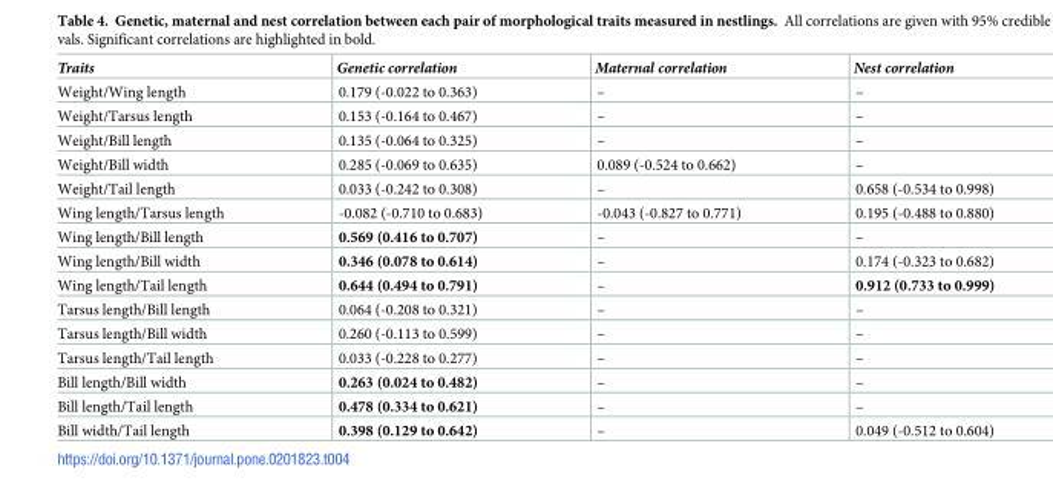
<table><thead><tr><td>Traits</td><td>Genetic correlation</td><td>Maternal correlation</td><td>Nest correlation</td></tr></thead><tbody><tr><td>Weight/Wing length</td><td>0.179 (-0.022 to 0.363)</td><td>–</td><td>–</td></tr><tr><td>Weight/Tarsus length</td><td>0.153 (-0.164 to 0.467)</td><td>–</td><td>–</td></tr><tr><td>Weight/Bill length</td><td>0.135 (-0.064 to 0.325)</td><td>–</td><td>–</td></tr><tr><td>Weight/Bill width</td><td>0.285 (-0.069 to 0.635)</td><td>0.089 (-0.524 to 0.662)</td><td>–</td></tr><tr><td>Weight/Tail length</td><td>0.033 (-0.242 to 0.308)</td><td>–</td><td>0.658 (-0.534 to 0.998)</td></tr><tr><td>Wing length/Tarsus length</td><td>-0.082 (-0.710 to 0.683)</td><td>-0.043 (-0.827 to 0.771)</td><td>0.195 (-0.488 to 0.880)</td></tr><tr><td>Wing length/Bill length</td><td>0.569 (0.416 to 0.707)</td><td>–</td><td>–</td></tr><tr><td>Wing length/Bill width</td><td>0.346 (0.078 to 0.614)</td><td>–</td><td>0.174 (-0.323 to 0.682)</td></tr><tr><td>Wing length/Tail length</td><td>0.644 (0.494 to 0.791)</td><td>–</td><td>0.912 (0.733 to 0.999)</td></tr><tr><td>Tarsus length/Bill length</td><td>0.064 (-0.208 to 0.321)</td><td>–</td><td>–</td></tr><tr><td>Tarsus length/Bill width</td><td>0.260 (-0.113 to 0.599)</td><td>–</td><td>–</td></tr><tr><td>Tarsus length/Tail length</td><td>0.033 (-0.228 to 0.277)</td><td>–</td><td>–</td></tr><tr><td>Bill length/Bill width</td><td>0.263 (0.024 to 0.482)</td><td>–</td><td>–</td></tr><tr><td>Bill length/Tail length</td><td>0.478 (0.334 to 0.621)</td><td>–</td><td>–</td></tr><tr><td>Bill width/Tail length</td><td>0.398 (0.129 to 0.642)</td><td>–</td><td>0.049 (-0.512 to 0.604)</td></tr></tbody></table>